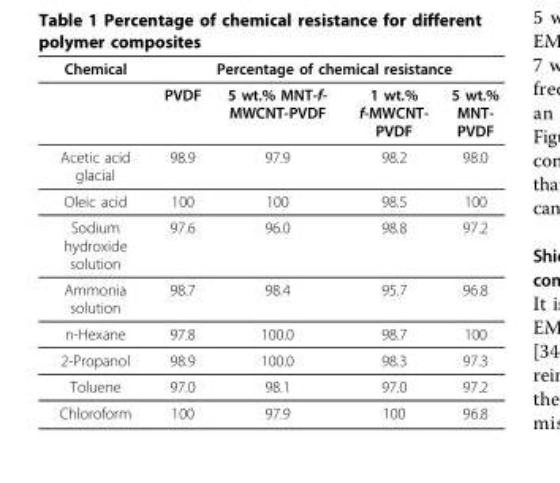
<table><thead><tr><td rowspan="2">Chemical</td><td colspan="4">Percentage of chemical resistance</td></tr><tr><td>PVDF</td><td>5 wt.% MNT-f- MWCNT-PVDF</td><td>1 wt.% f-MWCNT- PVDF</td><td>5 wt.% MNT- PVDF</td></tr></thead><tbody><tr><td>Acetic acid glacial</td><td>98.9</td><td>97.9</td><td>98.2</td><td>98.0</td></tr><tr><td>Oleic acid</td><td>100</td><td>100</td><td>98.5</td><td>100</td></tr><tr><td>Sodium hydroxide solution</td><td>97.6</td><td>96.0</td><td>98.8</td><td>97.2</td></tr><tr><td>Ammonia solution</td><td>98.7</td><td>98.4</td><td>95.7</td><td>96.8</td></tr><tr><td>n-Hexane</td><td>97.8</td><td>100.0</td><td>98.7</td><td>100</td></tr><tr><td>2-Propanol</td><td>98.9</td><td>100.0</td><td>98.3</td><td>97.3</td></tr><tr><td>Toluene</td><td>97.0</td><td>98.1</td><td>97.0</td><td>97.2</td></tr><tr><td>Chloroform</td><td>100</td><td>97.9</td><td>100</td><td>96.8</td></tr></tbody></table>